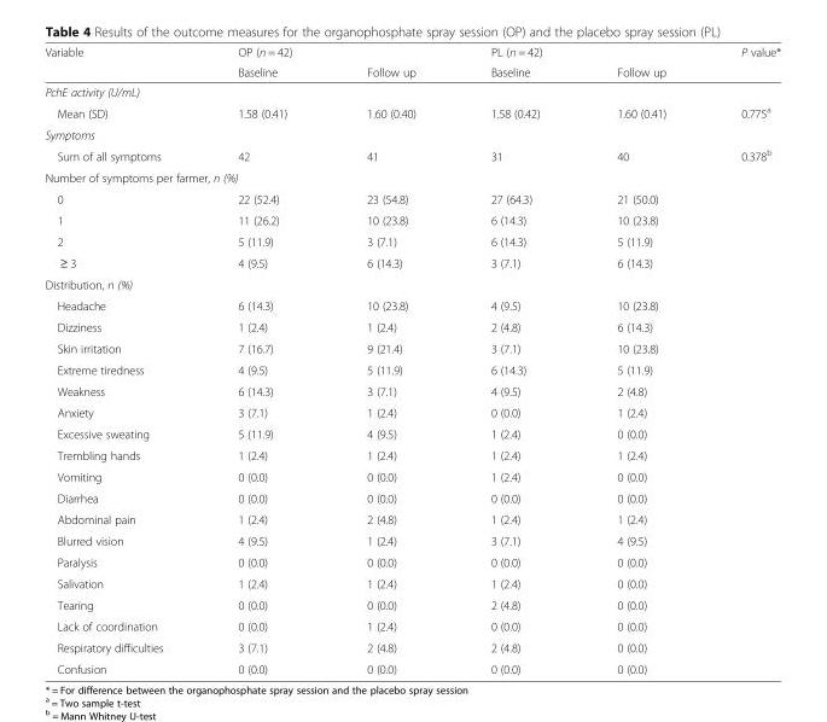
<table><thead><tr><td rowspan="2">Variable</td><td rowspan="2">OP (n = 42) Baseline</td><td rowspan="2">Follow up</td><td rowspan="2">PL (n = 42) Baseline</td><td rowspan="2">Follow up</td><td rowspan="2">P value*</td></tr><tr></tr></thead><tbody><tr><td colspan="6">PchE activity (U/mL)</td></tr><tr><td>Mean (SD)</td><td>1.58 (0.41)</td><td>1.60 (0.40)</td><td>1.58 (0.42)</td><td>1.60 (0.41)</td><td>0.775<sup>a</sup></td></tr><tr><td colspan="6">Symptoms</td></tr><tr><td>Sum of all symptoms</td><td>42</td><td>41</td><td>31</td><td>40</td><td>0.378<sup>b</sup></td></tr><tr><td colspan="6">Number of symptoms per farmer, n (%)</td></tr><tr><td>0</td><td>22 (52.4)</td><td>23 (54.8)</td><td>27 (64.3)</td><td>21 (50.0)</td><td></td></tr><tr><td>1</td><td>11 (26.2)</td><td>10 (23.8)</td><td>6 (14.3)</td><td>10 (23.8)</td><td></td></tr><tr><td>2</td><td>5 (11.9)</td><td>3 (7.1)</td><td>6 (14.3)</td><td>5 (11.9)</td><td></td></tr><tr><td>≥ 3</td><td>4 (9.5)</td><td>6 (14.3)</td><td>3 (7.1)</td><td>6 (14.3)</td><td></td></tr><tr><td colspan="6">Distribution, n (%)</td></tr><tr><td>Headache</td><td>6 (14.3)</td><td>10 (23.8)</td><td>4 (9.5)</td><td>10 (23.8)</td><td></td></tr><tr><td>Dizziness</td><td>1 (2.4)</td><td>1 (2.4)</td><td>2 (4.8)</td><td>6 (14.3)</td><td></td></tr><tr><td>Skin irritation</td><td>7 (16.7)</td><td>9 (21.4)</td><td>3 (7.1)</td><td>10 (23.8)</td><td></td></tr><tr><td>Extreme tiredness</td><td>4 (9.5)</td><td>5 (11.9)</td><td>6 (14.3)</td><td>5 (11.9)</td><td></td></tr><tr><td>Weakness</td><td>6 (14.3)</td><td>3 (7.1)</td><td>4 (9.5)</td><td>2 (4.8)</td><td></td></tr><tr><td>Anxiety</td><td>3 (7.1)</td><td>1 (2.4)</td><td>0 (0.0)</td><td>1 (2.4)</td><td></td></tr><tr><td>Excessive sweating</td><td>5 (11.9)</td><td>4 (9.5)</td><td>1 (2.4)</td><td>0 (0.0)</td><td></td></tr><tr><td>Trembling hands</td><td>1 (2.4)</td><td>1 (2.4)</td><td>1 (2.4)</td><td>1 (2.4)</td><td></td></tr><tr><td>Vomiting</td><td>0 (0.0)</td><td>0 (0.0)</td><td>1 (2.4)</td><td>0 (0.0)</td><td></td></tr><tr><td>Diarrhea</td><td>0 (0.0)</td><td>0 (0.0)</td><td>0 (0.0)</td><td>0 (0.0)</td><td></td></tr><tr><td>Abdominal pain</td><td>1 (2.4)</td><td>2 (4.8)</td><td>1 (2.4)</td><td>1 (2.4)</td><td></td></tr><tr><td>Blurred vision</td><td>4 (9.5)</td><td>1 (2.4)</td><td>3 (7.1)</td><td>4 (9.5)</td><td></td></tr><tr><td>Paralysis</td><td>0 (0.0)</td><td>0 (0.0)</td><td>0 (0.0)</td><td>0 (0.0)</td><td></td></tr><tr><td>Salivation</td><td>1 (2.4)</td><td>1 (2.4)</td><td>1 (2.4)</td><td>0 (0.0)</td><td></td></tr><tr><td>Tearing</td><td>0 (0.0)</td><td>0 (0.0)</td><td>2 (4.8)</td><td>0 (0.0)</td><td></td></tr><tr><td>Lack of coordination</td><td>0 (0.0)</td><td>1 (2.4)</td><td>0 (0.0)</td><td>0 (0.0)</td><td></td></tr><tr><td>Respiratory difficulties</td><td>3 (7.1)</td><td>2 (4.8)</td><td>2 (4.8)</td><td>0 (0.0)</td><td></td></tr><tr><td>Confusion</td><td>0 (0.0)</td><td>0 (0.0)</td><td>0 (0.0)</td><td>0 (0.0)</td><td></td></tr></tbody></table>